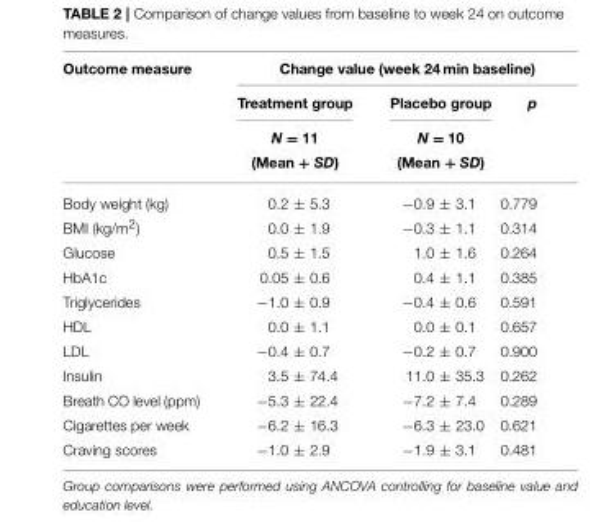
<table><thead><tr><td rowspan="4">Outcome measure</td><td colspan="3">Change value (week 24 min baseline)</td></tr><tr><td rowspan="3">Treatment group N = 11 (Mean + SD)</td><td rowspan="3">Placebo group N = 10 (Mean + SD)</td><td rowspan="3">p</td></tr><tr></tr><tr></tr></thead><tbody><tr><td>Body weight (kg)</td><td>0.2 ± 5.3</td><td>−0.9 ± 3.1</td><td>0.779</td></tr><tr><td>BMI (kg/m<sup>2</sup>)</td><td>0.0 ± 1.9</td><td>−0.3 ± 1.1</td><td>0.314</td></tr><tr><td>Glucose</td><td>0.5 ± 1.5</td><td>1.0 ± 1.6</td><td>0.264</td></tr><tr><td>HbA1c</td><td>0.05 ± 0.6</td><td>0.4 ± 1.1</td><td>0.385</td></tr><tr><td>Triglycerides</td><td>−1.0 ± 0.9</td><td>−0.4 ± 0.6</td><td>0.591</td></tr><tr><td>HDL</td><td>0.0 ± 1.1</td><td>0.0 ± 0.1</td><td>0.657</td></tr><tr><td>LDL</td><td>−0.4 ± 0.7</td><td>−0.2 ± 0.7</td><td>0.900</td></tr><tr><td>Insulin</td><td>3.5 ± 74.4</td><td>11.0 ± 35.3</td><td>0.262</td></tr><tr><td>Breath CO level (ppm)</td><td>−5.3 ± 22.4</td><td>−7.2 ± 7.4</td><td>0.289</td></tr><tr><td>Cigarettes per week</td><td>−6.2 ± 16.3</td><td>−6.3 ± 23.0</td><td>0.621</td></tr><tr><td>Craving scores</td><td>−1.0 ± 2.9</td><td>−1.9 ± 3.1</td><td>0.481</td></tr></tbody></table>